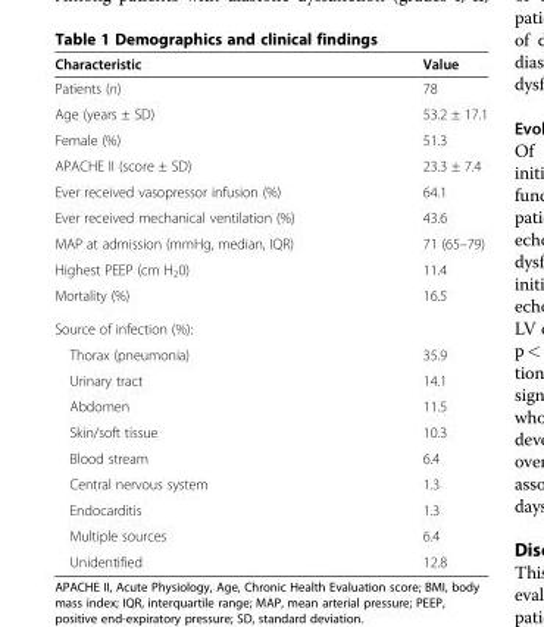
<table><thead><tr><td>Characteristic</td><td>Value</td></tr></thead><tbody><tr><td>Patients (n)</td><td>78</td></tr><tr><td>Age (years ± SD)</td><td>53.2 ± 17.1</td></tr><tr><td>Female (%)</td><td>51.3</td></tr><tr><td>APACHE II (score ± SD)</td><td>23.3 ± 7.4</td></tr><tr><td>Ever received vasopressor infusion (%)</td><td>64.1</td></tr><tr><td>Ever received mechanical ventilation (%)</td><td>43.6</td></tr><tr><td>MAP at admission (mmHg, median, IQR)</td><td>71 (65–79)</td></tr><tr><td>Highest PEEP (cm H<sub>2</sub>0)</td><td>11.4</td></tr><tr><td>Mortality (%)</td><td>16.5</td></tr><tr><td colspan="2">Source of infection (%):</td></tr><tr><td>Thorax (pneumonia)</td><td>35.9</td></tr><tr><td>Urinary tract</td><td>14.1</td></tr><tr><td>Abdomen</td><td>11.5</td></tr><tr><td>Skin/soft tissue</td><td>10.3</td></tr><tr><td>Blood stream</td><td>6.4</td></tr><tr><td>Central nervous system</td><td>1.3</td></tr><tr><td>Endocarditis</td><td>1.3</td></tr><tr><td>Multiple sources</td><td>6.4</td></tr><tr><td>Unidentified</td><td>12.8</td></tr></tbody></table>